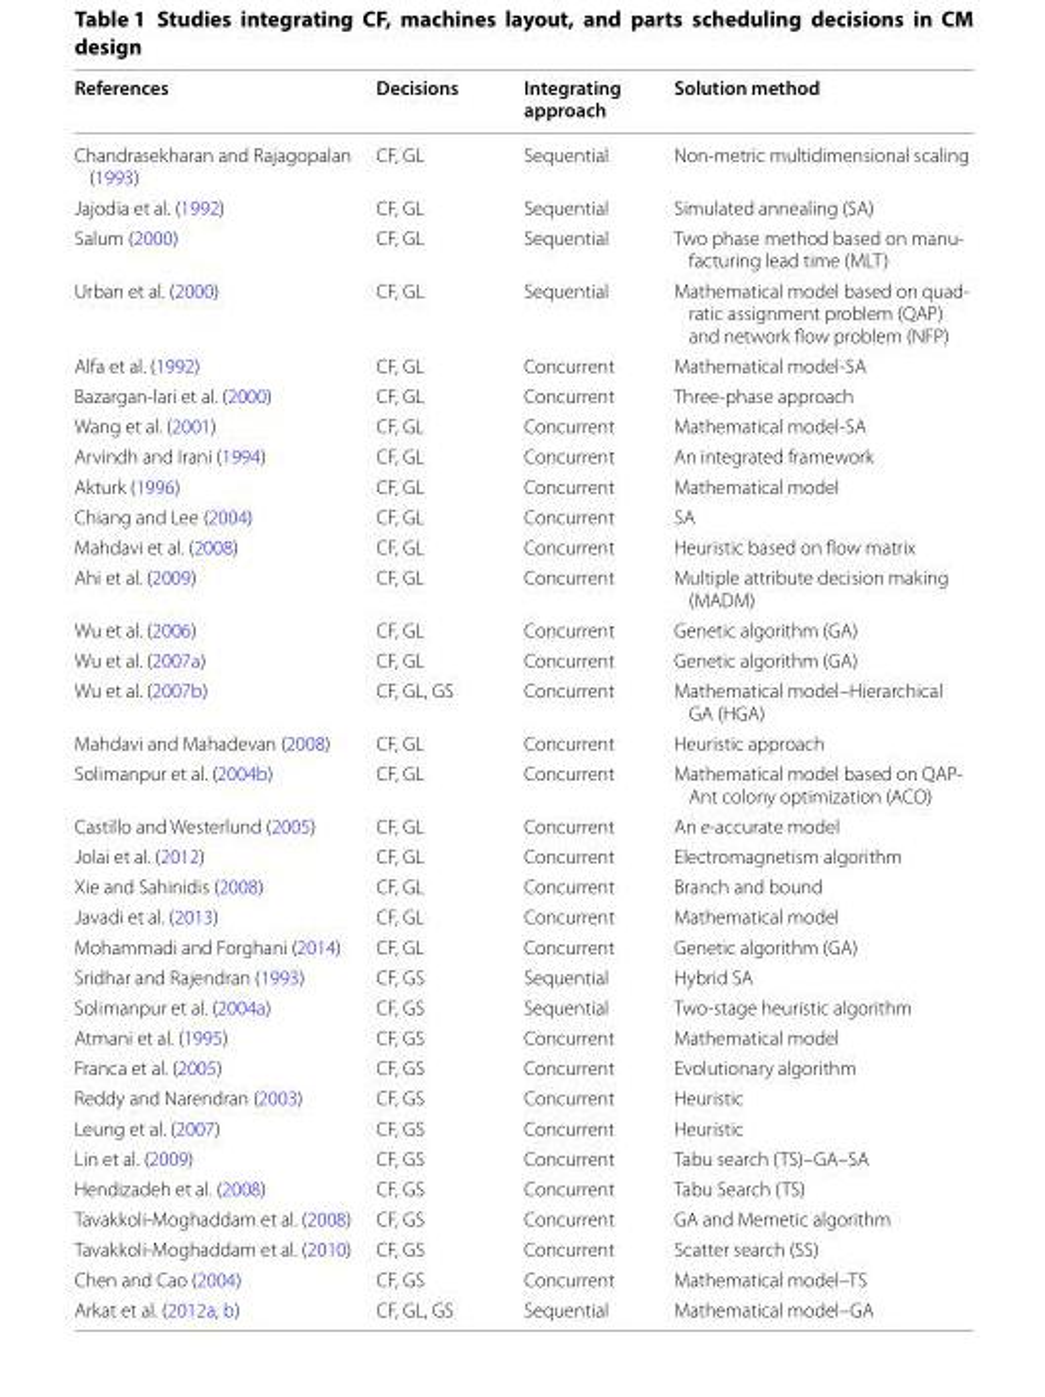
<table><thead><tr><td>References</td><td>Decisions</td><td>Integrating approach</td><td>Solution method</td></tr></thead><tbody><tr><td>Chandrasekharan and Rajagopalan (1993)</td><td>CF, GL</td><td>Sequential</td><td>Non-metric multidimensional scaling</td></tr><tr><td>Jajodia et al. (1992)</td><td>CF, GL</td><td>Sequential</td><td>Simulated annealing (SA)</td></tr><tr><td>Salum (2000)</td><td>CF, GL</td><td>Sequential</td><td>Two phase method based on manu- facturing lead time (MLT)</td></tr><tr><td>Urban et al. (2000)</td><td>CF, GL</td><td>Sequential</td><td>Mathematical model based on quad- ratic assignment problem (QAP) and network flow problem (NFP)</td></tr><tr><td>Alfa et al. (1992)</td><td>CF, GL</td><td>Concurrent</td><td>Mathematical model-SA</td></tr><tr><td>Bazargan-lari et al. (2000)</td><td>CF, GL</td><td>Concurrent</td><td>Three-phase approach</td></tr><tr><td>Wang et al. (2001)</td><td>CF, GL</td><td>Concurrent</td><td>Mathematical model-SA</td></tr><tr><td>Arvindh and Irani (1994)</td><td>CF, GL</td><td>Concurrent</td><td>An integrated framework</td></tr><tr><td>Akturk (1996)</td><td>CF, GL</td><td>Concurrent</td><td>Mathematical model</td></tr><tr><td>Chiang and Lee (2004)</td><td>CF, GL</td><td>Concurrent</td><td>SA</td></tr><tr><td>Mahdavi et al. (2008)</td><td>CF, GL</td><td>Concurrent</td><td>Heuristic based on flow matrix</td></tr><tr><td>Ahi et al. (2009)</td><td>CF, GL</td><td>Concurrent</td><td>Multiple attribute decision making (MADM)</td></tr><tr><td>Wu et al. (2006)</td><td>CF, GL</td><td>Concurrent</td><td>Genetic algorithm (GA)</td></tr><tr><td>Wu et al. (2007a)</td><td>CF, GL</td><td>Concurrent</td><td>Genetic algorithm (GA)</td></tr><tr><td>Wu et al. (2007b)</td><td>CF, GL, GS</td><td>Concurrent</td><td>Mathematical model–Hierarchical GA (HGA)</td></tr><tr><td>Mahdavi and Mahadevan (2008)</td><td>CF, GL</td><td>Concurrent</td><td>Heuristic approach</td></tr><tr><td>Solimanpur et al. (2004b)</td><td>CF, GL</td><td>Concurrent</td><td>Mathematical model based on QAP- Ant colony optimization (ACO)</td></tr><tr><td>Castillo and Westerlund (2005)</td><td>CF, GL</td><td>Concurrent</td><td>An e-accurate model</td></tr><tr><td>Jolai et al. (2012)</td><td>CF, GL</td><td>Concurrent</td><td>Electromagnetism algorithm</td></tr><tr><td>Xie and Sahinidis (2008)</td><td>CF, GL</td><td>Concurrent</td><td>Branch and bound</td></tr><tr><td>Javadi et al. (2013)</td><td>CF, GL</td><td>Concurrent</td><td>Mathematical model</td></tr><tr><td>Mohammadi and Forghani (2014)</td><td>CF, GL</td><td>Concurrent</td><td>Genetic algorithm (GA)</td></tr><tr><td>Sridhar and Rajendran (1993)</td><td>CF, GS</td><td>Sequential</td><td>Hybrid SA</td></tr><tr><td>Solimanpur et al. (2004a)</td><td>CF, GS</td><td>Sequential</td><td>Two-stage heuristic algorithm</td></tr><tr><td>Atmani et al. (1995)</td><td>CF, GS</td><td>Concurrent</td><td>Mathematical model</td></tr><tr><td>Franca et al. (2005)</td><td>CF, GS</td><td>Concurrent</td><td>Evolutionary algorithm</td></tr><tr><td>Reddy and Narendran (2003)</td><td>CF, GS</td><td>Concurrent</td><td>Heuristic</td></tr><tr><td>Leung et al. (2007)</td><td>CF, GS</td><td>Concurrent</td><td>Heuristic</td></tr><tr><td>Lin et al. (2009)</td><td>CF, GS</td><td>Concurrent</td><td>Tabu search (TS)–GA–SA</td></tr><tr><td>Hendizadeh et al. (2008)</td><td>CF, GS</td><td>Concurrent</td><td>Tabu Search (TS)</td></tr><tr><td>Tavakkoli-Moghaddam et al. (2008)</td><td>CF, GS</td><td>Concurrent</td><td>GA and Memetic algorithm</td></tr><tr><td>Tavakkoli-Moghaddam et al. (2010)</td><td>CF, GS</td><td>Concurrent</td><td>Scatter search (SS)</td></tr><tr><td>Chen and Cao (2004)</td><td>CF, GS</td><td>Concurrent</td><td>Mathematical model–TS</td></tr><tr><td>Arkat et al. (2012a, b)</td><td>CF, GL, GS</td><td>Sequential</td><td>Mathematical model–GA</td></tr></tbody></table>